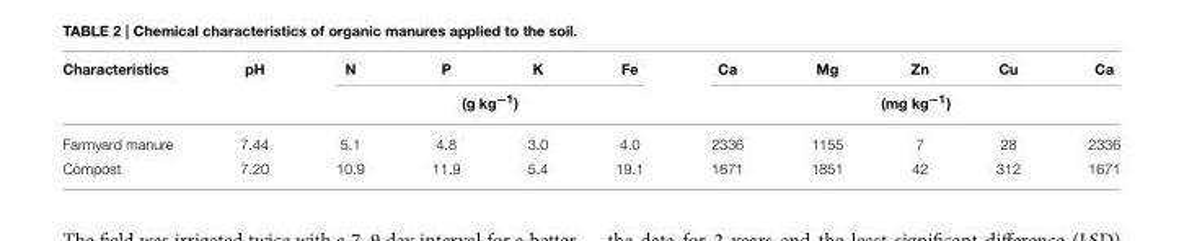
<table><thead><tr><td rowspan="2">Characteristics</td><td rowspan="2">pH</td><td>N</td><td>P</td><td>K</td><td>Fe</td><td>Ca</td><td>Mg</td><td>Zn</td><td>Cu</td><td>Ca</td></tr><tr><td colspan="4">(g kg<sup>−1</sup>)</td><td colspan="5">(mg kg<sup>−1</sup>)</td></tr></thead><tbody><tr><td>Farmyard manure</td><td>7.44</td><td>5.1</td><td>4.8</td><td>3.0</td><td>4.0</td><td>2336</td><td>1155</td><td>7</td><td>28</td><td>2336</td></tr><tr><td>Compost</td><td>7.20</td><td>10.9</td><td>11.9</td><td>5.4</td><td>19.1</td><td>1671</td><td>1851</td><td>42</td><td>312</td><td>1671</td></tr></tbody></table>